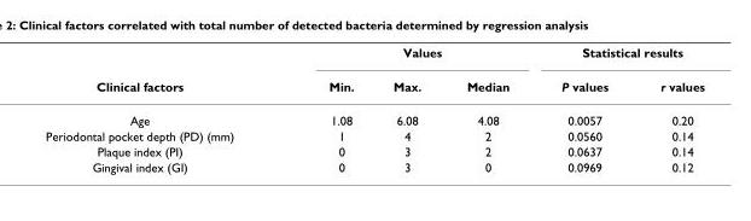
<table><thead><tr><td rowspan="2">Clinical factors</td><td colspan="3">Values</td><td colspan="2">Statistical results</td></tr><tr><td>Min.</td><td>Max.</td><td>Median</td><td>P values</td><td>r values</td></tr></thead><tbody><tr><td>Age</td><td>1.08</td><td>6.08</td><td>4.08</td><td>0.0057</td><td>0.20</td></tr><tr><td>Periodontal pocket depth (PD) (mm)</td><td>1</td><td>4</td><td>2</td><td>0.0560</td><td>0.14</td></tr><tr><td>Plaque index (PI)</td><td>0</td><td>3</td><td>2</td><td>0.0637</td><td>0.14</td></tr><tr><td>Gingival index (GI)</td><td>0</td><td>3</td><td>0</td><td>0.0969</td><td>0.12</td></tr></tbody></table>